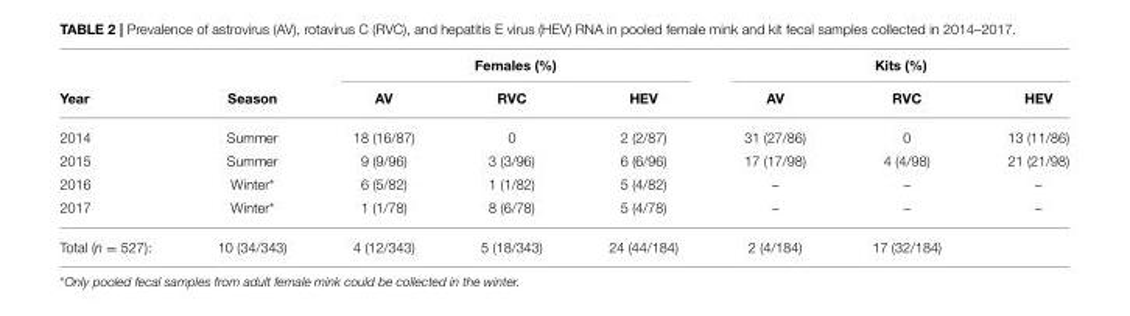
<table><thead><tr><td rowspan="2">Year</td><td rowspan="2">Season</td><td colspan="3">Females (%)</td><td colspan="3">Kits (%)</td></tr><tr><td>AV</td><td>RVC</td><td>HEV</td><td>AV</td><td>RVC</td><td>HEV</td></tr></thead><tbody><tr><td>2014</td><td>Summer</td><td>18 (16/87)</td><td>0</td><td>2 (2/87)</td><td>31 (27/86)</td><td>0</td><td>13 (11/86)</td></tr><tr><td>2015</td><td>Summer</td><td>9 (9/96)</td><td>3 (3/96)</td><td>6 (6/96)</td><td>17 (17/98)</td><td>4 (4/98)</td><td>21 (21/98)</td></tr><tr><td>2016</td><td>Winter*</td><td>6 (5/82)</td><td>1 (1/82)</td><td>5 (4/82)</td><td>–</td><td>–</td><td>–</td></tr><tr><td>2017</td><td>Winter*</td><td>1 (1/78)</td><td>8 (6/78)</td><td>5 (4/78)</td><td>–</td><td>–</td><td>–</td></tr><tr><td>Total (n = 527):</td><td>10 (34/343)</td><td>4 (12/343)</td><td>5 (18/343)</td><td>24 (44/184)</td><td>2 (4/184)</td><td>17 (32/184)</td><td></td></tr></tbody></table>